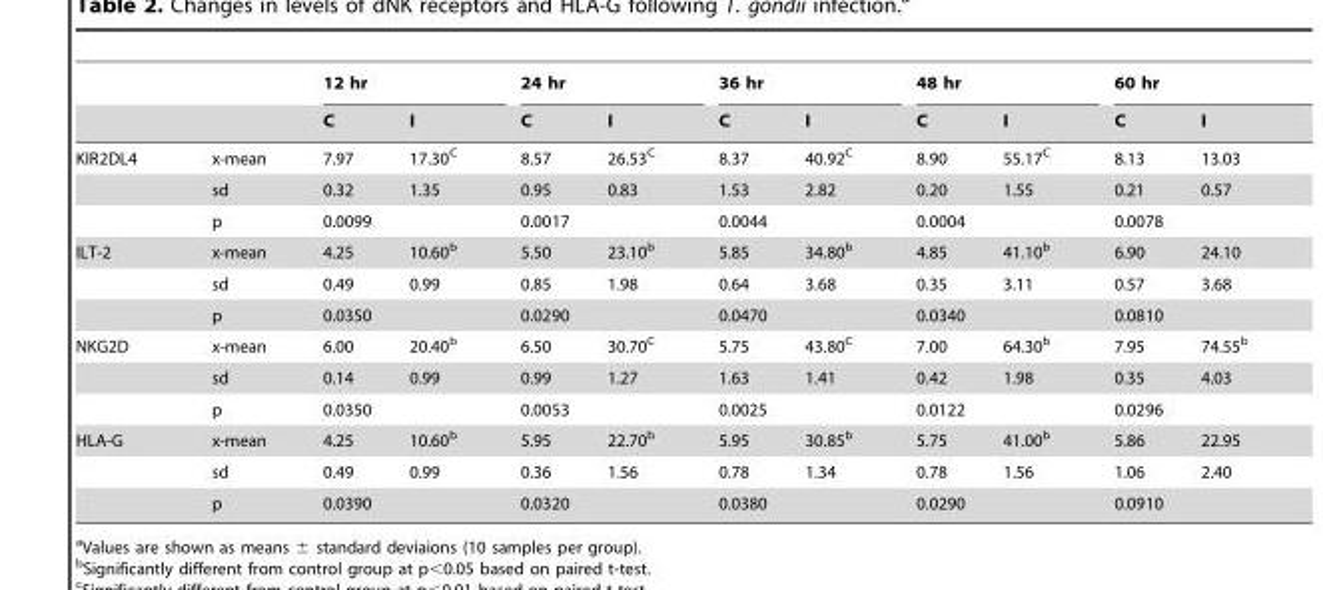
<table><thead><tr><td rowspan="2"></td><td rowspan="2"></td><td colspan="2">12 hr</td><td colspan="2">24 hr</td><td colspan="2">36 hr</td><td colspan="2">48 hr</td><td colspan="2">60 hr</td></tr><tr><td>C</td><td>I</td><td>C</td><td>I</td><td>C</td><td>I</td><td>C</td><td>I</td><td>C</td><td>I</td></tr></thead><tbody><tr><td rowspan="3">KIR2DL4</td><td>x-mean</td><td>7.97</td><td>17.30<sup>C</sup></td><td>8.57</td><td>26.53<sup>C</sup></td><td>8.37</td><td>40.92<sup>C</sup></td><td>8.90</td><td>55.17<sup>C</sup></td><td>8.13</td><td>13.03</td></tr><tr><td>sd</td><td>0.32</td><td>1.35</td><td>0.95</td><td>0.83</td><td>1.53</td><td>2.82</td><td>0.20</td><td>1.55</td><td>0.21</td><td>0.57</td></tr><tr><td>p</td><td colspan="2">0.0099</td><td colspan="2">0.0017</td><td colspan="2">0.0044</td><td colspan="2">0.0004</td><td colspan="2">0.0078</td></tr><tr><td rowspan="3">ILT-2</td><td>x-mean</td><td>4.25</td><td>10.60<sup>b</sup></td><td>5.50</td><td>23.10<sup>b</sup></td><td>5.85</td><td>34.80<sup>b</sup></td><td>4.85</td><td>41.10<sup>b</sup></td><td>6.90</td><td>24.10</td></tr><tr><td>sd</td><td>0.49</td><td>0.99</td><td>0.85</td><td>1.98</td><td>0.64</td><td>3.68</td><td>0.35</td><td>3.11</td><td>0.57</td><td>3.68</td></tr><tr><td>p</td><td colspan="2">0.0350</td><td colspan="2">0.0290</td><td colspan="2">0.0470</td><td colspan="2">0.0340</td><td colspan="2">0.0810</td></tr><tr><td rowspan="3">NKG2D</td><td>x-mean</td><td>6.00</td><td>20.40<sup>b</sup></td><td>6.50</td><td>30.70<sup>C</sup></td><td>5.75</td><td>43.80<sup>C</sup></td><td>7.00</td><td>64.30<sup>b</sup></td><td>7.95</td><td>74.55<sup>b</sup></td></tr><tr><td>sd</td><td>0.14</td><td>0.99</td><td>0.99</td><td>1.27</td><td>1.63</td><td>1.41</td><td>0.42</td><td>1.98</td><td>0.35</td><td>4.03</td></tr><tr><td>p</td><td colspan="2">0.0350</td><td colspan="2">0.0053</td><td colspan="2">0.0025</td><td colspan="2">0.0122</td><td colspan="2">0.0296</td></tr><tr><td rowspan="3">HLA-G</td><td>x-mean</td><td>4.25</td><td>10.60<sup>b</sup></td><td>5.95</td><td>22.70<sup>b</sup></td><td>5.95</td><td>30.85<sup>b</sup></td><td>5.75</td><td>41.00<sup>b</sup></td><td>5.86</td><td>22.95</td></tr><tr><td>sd</td><td>0.49</td><td>0.99</td><td>0.36</td><td>1.56</td><td>0.78</td><td>1.34</td><td>0.78</td><td>1.56</td><td>1.06</td><td>2.40</td></tr><tr><td>p</td><td colspan="2">0.0390</td><td colspan="2">0.0320</td><td colspan="2">0.0380</td><td colspan="2">0.0290</td><td colspan="2">0.0910</td></tr></tbody></table>